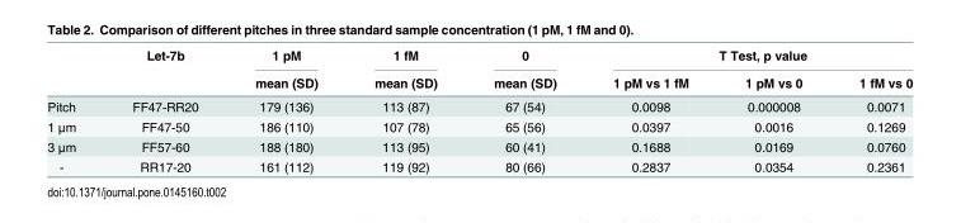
<table><thead><tr><td rowspan="2"></td><td rowspan="2">Let-7b</td><td rowspan="2">1 pM mean (SD)</td><td rowspan="2">1 fM mean (SD)</td><td rowspan="2">0 mean (SD)</td><td colspan="3">T Test, p value</td></tr><tr><td>1 pM vs 1 fM</td><td>1 pM vs 0</td><td>1 fM vs 0</td></tr></thead><tbody><tr><td>Pitch</td><td>FF47-RR20</td><td>179 (136)</td><td>113 (87)</td><td>67 (54)</td><td>0.0098</td><td>0.000008</td><td>0.0071</td></tr><tr><td>1 μm</td><td>FF47-50</td><td>186 (110)</td><td>107 (78)</td><td>65 (56)</td><td>0.0397</td><td>0.0016</td><td>0.1269</td></tr><tr><td>3 μm</td><td>FF57-60</td><td>188 (180)</td><td>113 (95)</td><td>60 (41)</td><td>0.1688</td><td>0.0169</td><td>0.0760</td></tr><tr><td>-</td><td>RR17-20</td><td>161 (112)</td><td>119 (92)</td><td>80 (66)</td><td>0.2837</td><td>0.0354</td><td>0.2361</td></tr></tbody></table>